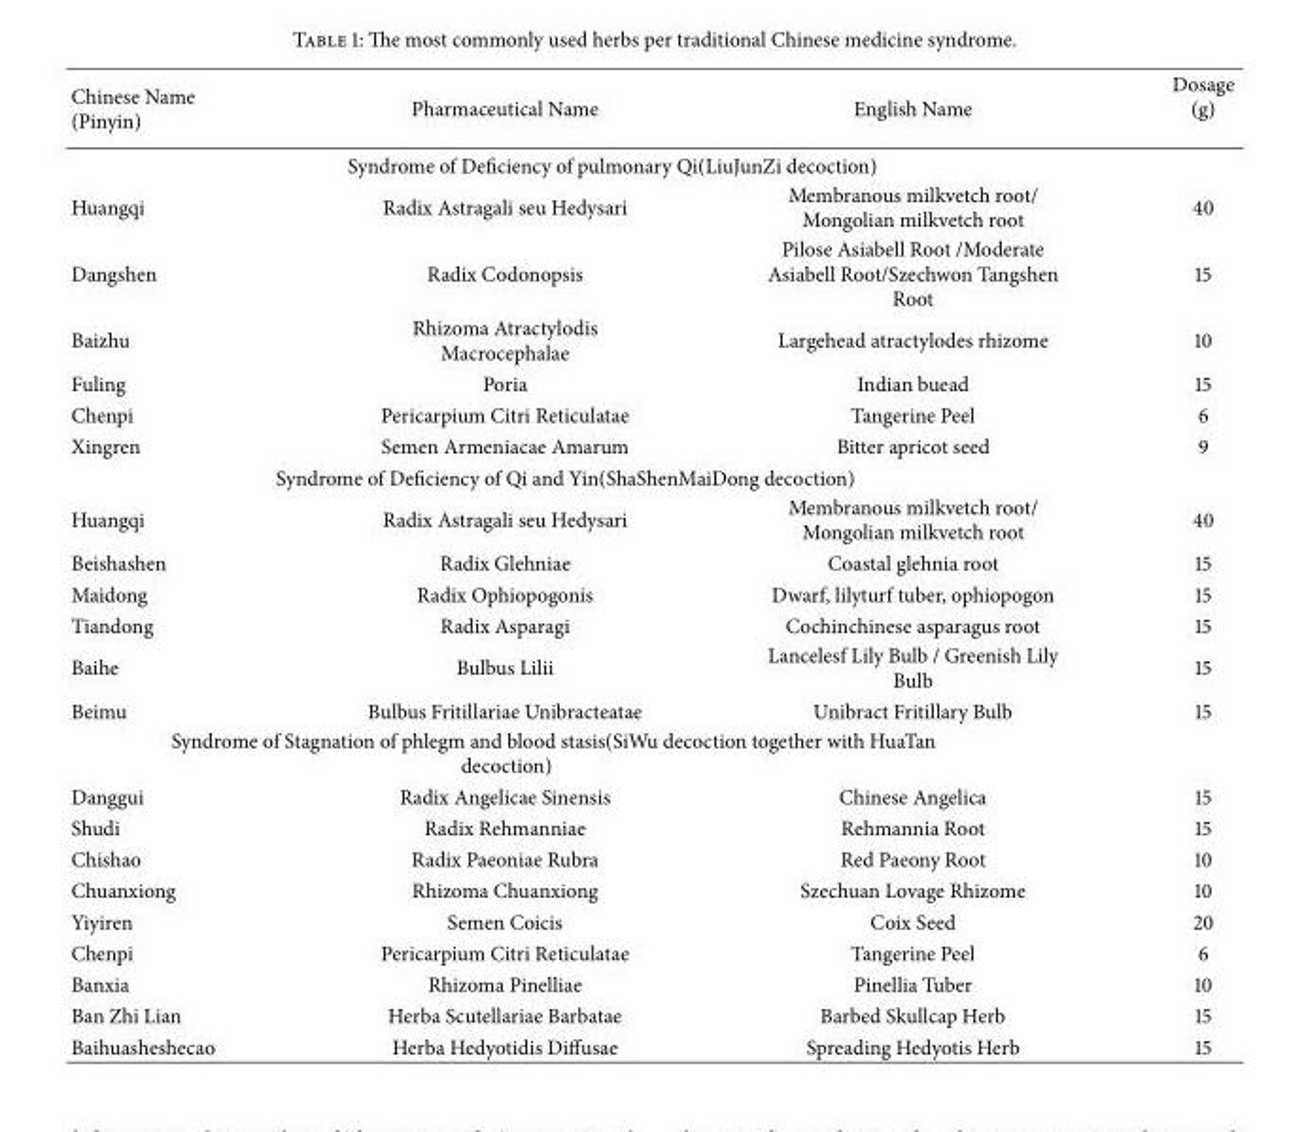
<table><thead><tr><td>Chinese Name (Pinyin)</td><td>Pharmaceutical Name</td><td>English Name</td><td>Dosage (g)</td></tr></thead><tbody><tr><td colspan="4">Syndrome of Deficiency of pulmonary Qi(LiuJunZi decoction)</td></tr><tr><td>Huangqi</td><td>Radix Astragali seu Hedysari</td><td>Membranous milkvetch root/ Mongolian milkvetch root</td><td>40</td></tr><tr><td>Dangshen</td><td>Radix Codonopsis</td><td>Pilose Asiabell Root /Moderate Asiabell Root/Szechwon Tangshen Root</td><td>15</td></tr><tr><td>Baizhu</td><td>Rhizoma Atractylodis Macrocephalae</td><td>Largehead atractylodes rhizome</td><td>10</td></tr><tr><td>Fuling</td><td>Poria</td><td>Indian buead</td><td>15</td></tr><tr><td>Chenpi</td><td>Pericarpium Citri Reticulatae</td><td>Tangerine Peel</td><td>6</td></tr><tr><td>Xingren</td><td>Semen Armeniacae Amarum</td><td>Bitter apricot seed</td><td>9</td></tr><tr><td colspan="4">Syndrome of Deficiency of Qi and Yin(ShaShenMaiDong decoction)</td></tr><tr><td>Huangqi</td><td>Radix Astragali seu Hedysari</td><td>Membranous milkvetch root/ Mongolian milkvetch root</td><td>40</td></tr><tr><td>Beishashen</td><td>Radix Glehniae</td><td>Coastal glehnia root</td><td>15</td></tr><tr><td>Maidong</td><td>Radix Ophiopogonis</td><td>Dwarf, lilyturf tuber, ophiopogon</td><td>15</td></tr><tr><td>Tiandong</td><td>Radix Asparagi</td><td>Cochinchinese asparagus root</td><td>15</td></tr><tr><td>Baihe</td><td>Bulbus Lilii</td><td>Lancelesf Lily Bulb / Greenish Lily Bulb</td><td>15</td></tr><tr><td>Beimu</td><td>Bulbus Fritillariae Unibracteatae</td><td>Unibract Fritillary Bulb</td><td>15</td></tr><tr><td colspan="4">Syndrome of Stagnation of phlegm and blood stasis(SiWu decoction together with HuaTan decoction)</td></tr><tr><td>Danggui</td><td>Radix Angelicae Sinensis</td><td>Chinese Angelica</td><td>15</td></tr><tr><td>Shudi</td><td>Radix Rehmanniae</td><td>Rehmannia Root</td><td>15</td></tr><tr><td>Chishao</td><td>Radix Paeoniae Rubra</td><td>Red Paeony Root</td><td>10</td></tr><tr><td>Chuanxiong</td><td>Rhizoma Chuanxiong</td><td>Szechuan Lovage Rhizome</td><td>10</td></tr><tr><td>Yiyiren</td><td>Semen Coicis</td><td>Coix Seed</td><td>20</td></tr><tr><td>Chenpi</td><td>Pericarpium Citri Reticulatae</td><td>Tangerine Peel</td><td>6</td></tr><tr><td>Banxia</td><td>Rhizoma Pinelliae</td><td>Pinellia Tuber</td><td>10</td></tr><tr><td>Ban Zhi Lian</td><td>Herba Scutellariae Barbatae</td><td>Barbed Skullcap Herb</td><td>15</td></tr><tr><td>Baihuasheshecao</td><td>Herba Hedyotidis Diffusae</td><td>Spreading Hedyotis Herb</td><td>15</td></tr></tbody></table>